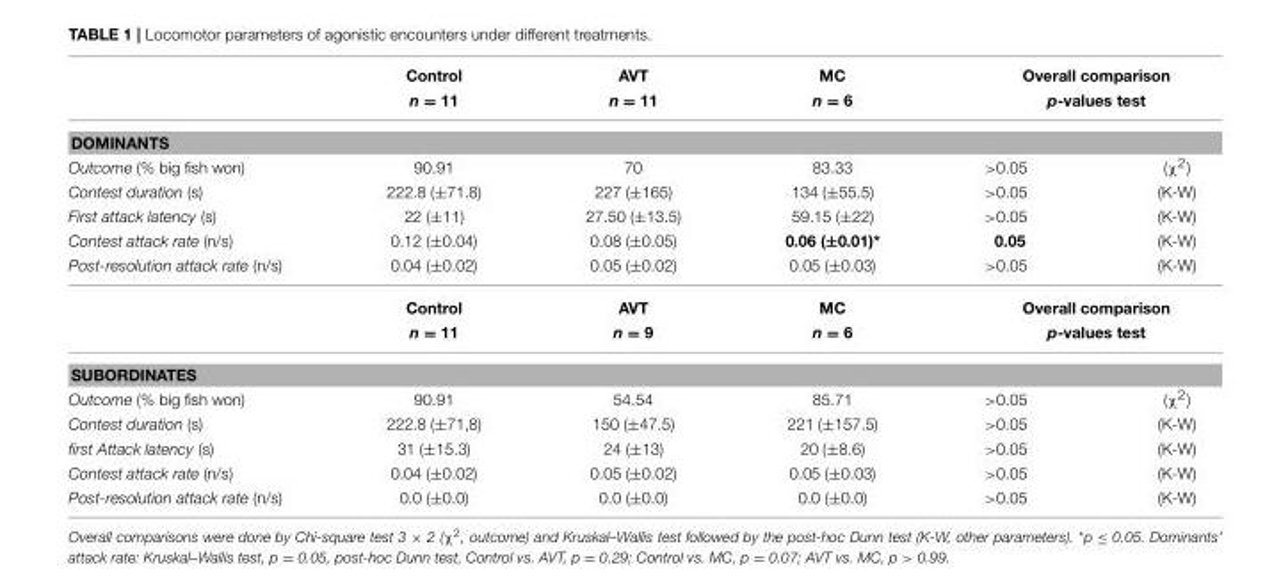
<table><thead><tr><td></td><td>Control n = 11</td><td>AVT n = 11</td><td>MC n = 6</td><td colspan="2">Overall comparison p-values test</td></tr><tr><td colspan="6">DOMINANTS</td></tr><tr><td>Outcome (% big fish won)</td><td>90.91</td><td>70</td><td>83.33</td><td>&gt;0.05</td><td>(χ<sup>2</sup>)</td></tr></thead><tbody><tr><td>Contest duration (s)</td><td>222.8 (±71.8)</td><td>227 (±165)</td><td>134 (±55.5)</td><td>&gt;0.05</td><td>(K-W)</td></tr><tr><td>First attack latency (s)</td><td>22 (±11)</td><td>27.50 (±13.5)</td><td>59.15 (±22)</td><td>&gt;0.05</td><td>(K-W)</td></tr><tr><td>Contest attack rate (n/s)</td><td>0.12 (±0.04)</td><td>0.08 (±0.05)</td><td>0.06 (±0.01)*</td><td>0.05</td><td>(K-W)</td></tr><tr><td rowspan="2">Post-resolution attack rate (n/s)</td><td>0.04 (±0.02)</td><td>0.05 (±0.02)</td><td>0.05 (±0.03)</td><td>&gt;0.05</td><td>(K-W)</td></tr><tr><td>Control n = 11</td><td>AVT n = 9</td><td>MC n = 6</td><td colspan="2">Overall comparison p-values test</td></tr><tr><td colspan="6">SUBORDINATES</td></tr><tr><td>Outcome (% big fish won)</td><td>90.91</td><td>54.54</td><td>85.71</td><td>&gt;0.05</td><td>(χ<sup>2</sup>)</td></tr><tr><td>Contest duration (s)</td><td>222.8 (±71,8)</td><td>150 (±47.5)</td><td>221 (±157.5)</td><td>&gt;0.05</td><td>(K-W)</td></tr><tr><td>first Attack latency (s)</td><td>31 (±15.3)</td><td>24 (±13)</td><td>20 (±8.6)</td><td>&gt;0.05</td><td>(K-W)</td></tr><tr><td>Contest attack rate (n/s)</td><td>0.04 (±0.02)</td><td>0.05 (±0.02)</td><td>0.05 (±0.03)</td><td>&gt;0.05</td><td>(K-W)</td></tr><tr><td>Post-resolution attack rate (n/s)</td><td>0.0 (±0.0)</td><td>0.0 (±0.0)</td><td>0.0 (±0.0)</td><td>&gt;0.05</td><td>(K-W)</td></tr></tbody></table>